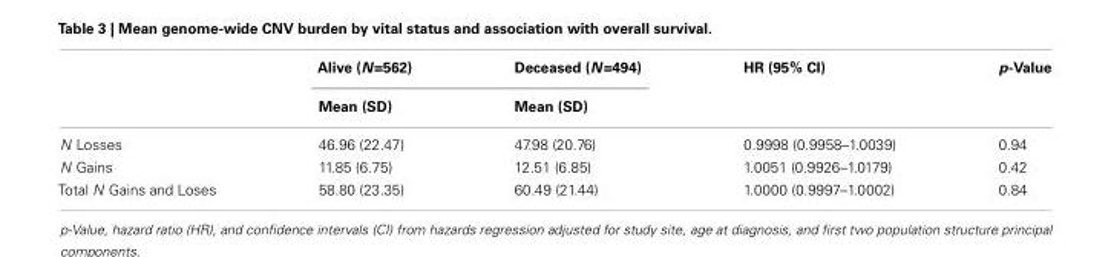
<table><thead><tr><td rowspan="2"></td><td rowspan="2">Alive (N=562) Mean (SD)</td><td rowspan="2">Deceased (N=494) Mean (SD)</td><td rowspan="2">HR (95% CI)</td><td rowspan="2">p-Value</td></tr><tr></tr></thead><tbody><tr><td>N Losses</td><td>46.96 (22.47)</td><td>47.98 (20.76)</td><td>0.9998 (0.9958–1.0039)</td><td>0.94</td></tr><tr><td>N Gains</td><td>11.85 (6.75)</td><td>12.51 (6.85)</td><td>1.0051 (0.9926–1.0179)</td><td>0.42</td></tr><tr><td>Total N Gains and Loses</td><td>58.80 (23.35)</td><td>60.49 (21.44)</td><td>1.0000 (0.9997–1.0002)</td><td>0.84</td></tr></tbody></table>